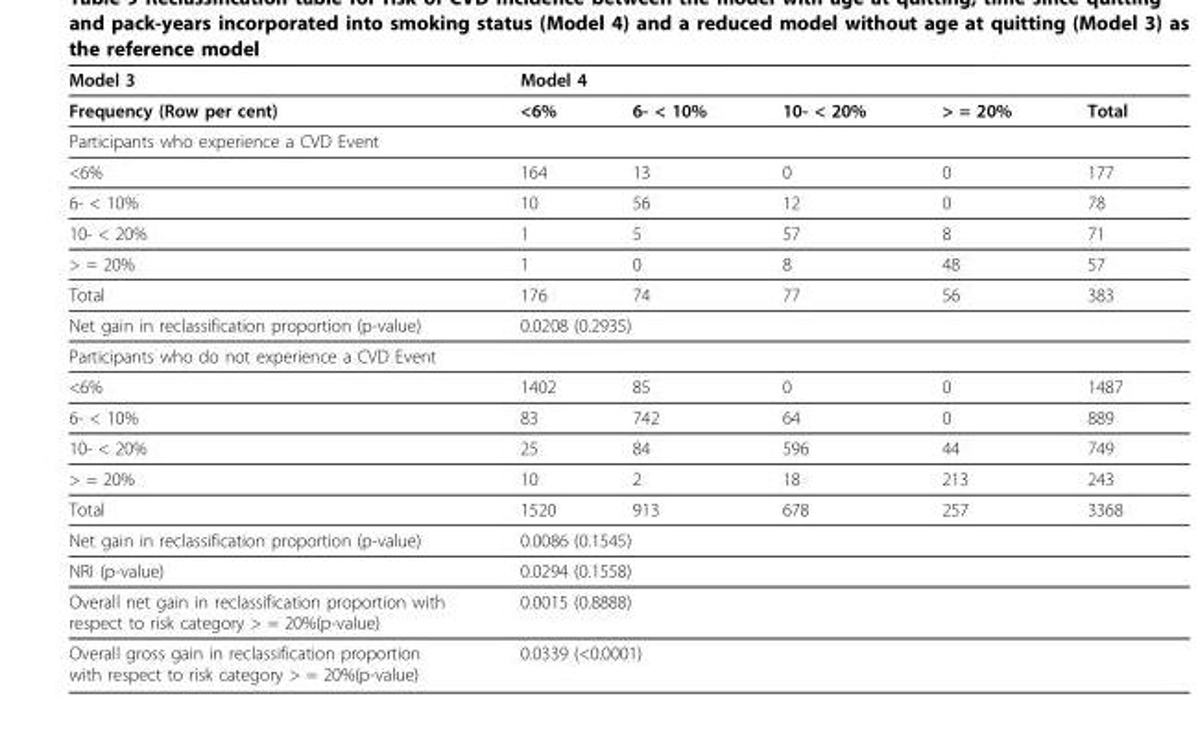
<table><thead><tr><td rowspan="2">Model 3 Frequency (Row per cent)</td><td colspan="4">Model 4</td><td rowspan="2">Total</td></tr><tr><td>&lt;6%</td><td>6- &lt; 10%</td><td>10- &lt; 20%</td><td>&gt; = 20%</td></tr></thead><tbody><tr><td colspan="6">Participants who experience a CVD Event</td></tr><tr><td>&lt;6%</td><td>164</td><td>13</td><td>0</td><td>0</td><td>177</td></tr><tr><td>6- &lt; 10%</td><td>10</td><td>56</td><td>12</td><td>0</td><td>78</td></tr><tr><td>10- &lt; 20%</td><td>1</td><td>5</td><td>57</td><td>8</td><td>71</td></tr><tr><td>&gt; = 20%</td><td>1</td><td>0</td><td>8</td><td>48</td><td>57</td></tr><tr><td>Total</td><td>176</td><td>74</td><td>77</td><td>56</td><td>383</td></tr><tr><td>Net gain in reclassification proportion (p-value)</td><td colspan="4">0.0208 (0.2935)</td><td></td></tr><tr><td colspan="6">Participants who do not experience a CVD Event</td></tr><tr><td>&lt;6%</td><td>1402</td><td>85</td><td>0</td><td>0</td><td>1487</td></tr><tr><td>6- &lt; 10%</td><td>83</td><td>742</td><td>64</td><td>0</td><td>889</td></tr><tr><td>10- &lt; 20%</td><td>25</td><td>84</td><td>596</td><td>44</td><td>749</td></tr><tr><td>&gt; = 20%</td><td>10</td><td>2</td><td>18</td><td>213</td><td>243</td></tr><tr><td>Total</td><td>1520</td><td>913</td><td>678</td><td>257</td><td>3368</td></tr><tr><td>Net gain in reclassification proportion (p-value)</td><td colspan="4">0.0086 (0.1545)</td><td></td></tr><tr><td>NRI (p-value)</td><td colspan="4">0.0294 (0.1558)</td><td></td></tr><tr><td>Overall net gain in reclassification proportion with respect to risk category &gt; = 20%(p-value)</td><td colspan="4">0.0015 (0.8888)</td><td></td></tr><tr><td>Overall gross gain in reclassification proportion with respect to risk category &gt; = 20%(p-value)</td><td colspan="4">0.0339 (&lt;0.0001)</td><td></td></tr></tbody></table>